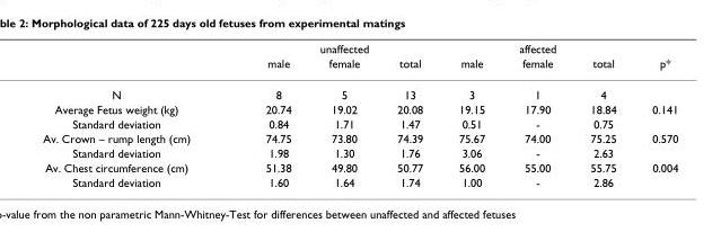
<table><thead><tr><td rowspan="2"></td><td colspan="3">unaffected</td><td colspan="3">affected</td><td rowspan="2">p*</td></tr><tr><td>male</td><td>female</td><td>total</td><td>male</td><td>female</td><td>total</td></tr></thead><tbody><tr><td>N</td><td>8</td><td>5</td><td>13</td><td>3</td><td>1</td><td>4</td><td></td></tr><tr><td>Average Fetus weight (kg)</td><td>20.74</td><td>19.02</td><td>20.08</td><td>19.15</td><td>17.90</td><td>18.84</td><td>0.141</td></tr><tr><td>Standard deviation</td><td>0.84</td><td>1.71</td><td>1.47</td><td>0.51</td><td>-</td><td>0.75</td><td></td></tr><tr><td>Av. Crown – rump length (cm)</td><td>74.75</td><td>73.80</td><td>74.39</td><td>75.67</td><td>74.00</td><td>75.25</td><td>0.570</td></tr><tr><td>Standard deviation</td><td>1.98</td><td>1.30</td><td>1.76</td><td>3.06</td><td>-</td><td>2.63</td><td></td></tr><tr><td>Av. Chest circumference (cm)</td><td>51.38</td><td>49.80</td><td>50.77</td><td>56.00</td><td>55.00</td><td>55.75</td><td>0.004</td></tr><tr><td>Standard deviation</td><td>1.60</td><td>1.64</td><td>1.74</td><td>1.00</td><td>-</td><td>2.86</td><td></td></tr></tbody></table>